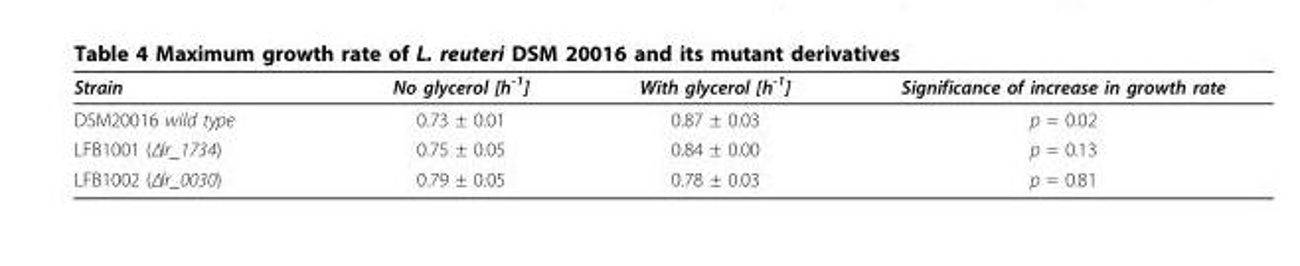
<table><thead><tr><td>Strain</td><td>No glycerol [h<sup>-1</sup>]</td><td>With glycerol [h<sup>-1</sup>]</td><td>Significance of increase in growth rate</td></tr></thead><tbody><tr><td>DSM20016 wild type</td><td>0.73 ± 0.01</td><td>0.87 ± 0.03</td><td>p = 0.02</td></tr><tr><td>LFB1001 (Δlr_1734)</td><td>0.75 ± 0.05</td><td>0.84 ± 0.00</td><td>p = 0.13</td></tr><tr><td>LFB1002 (Δlr_0030)</td><td>0.79 ± 0.05</td><td>0.78 ± 0.03</td><td>p = 0.81</td></tr></tbody></table>